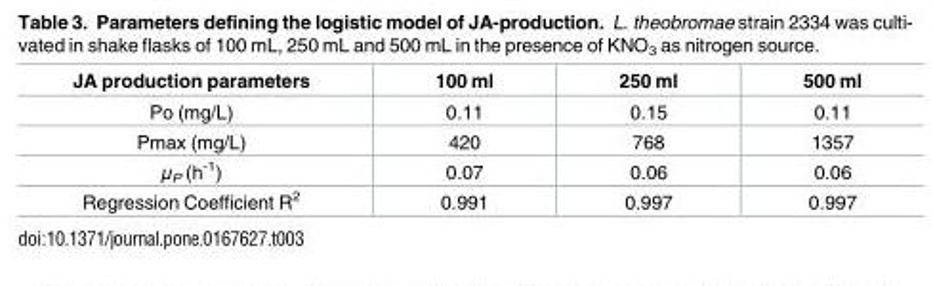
<table><thead><tr><td>JA production parameters</td><td>100 ml</td><td>250 ml</td><td>500 ml</td></tr></thead><tbody><tr><td>Po (mg/L)</td><td>0.11</td><td>0.15</td><td>0.11</td></tr><tr><td>Pmax (mg/L)</td><td>420</td><td>768</td><td>1357</td></tr><tr><td>μ<sub>P</sub> (h<sup>-1</sup>)</td><td>0.07</td><td>0.06</td><td>0.06</td></tr><tr><td>Regression Coefficient R<sup>2</sup></td><td>0.991</td><td>0.997</td><td>0.997</td></tr></tbody></table>